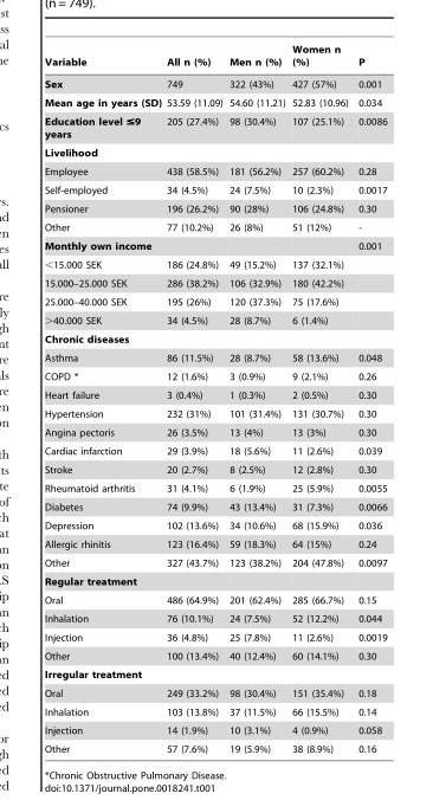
<table><thead><tr><td>Variable</td><td>All n (%)</td><td>Men n (%)</td><td>Women n (%)</td><td>P</td></tr></thead><tbody><tr><td>Sex</td><td>749</td><td>322 (43%)</td><td>427 (57%)</td><td>0.001</td></tr><tr><td>Mean age in years (SD)</td><td>53.59 (11.09)</td><td>54.60 (11.21)</td><td>52.83 (10.96)</td><td>0.034</td></tr><tr><td>Education level ≤9 years</td><td>205 (27.4%)</td><td>98 (30.4%)</td><td>107 (25.1%)</td><td>0.0086</td></tr><tr><td colspan="5">Livelihood</td></tr><tr><td>Employee</td><td>438 (58.5%)</td><td>181 (56.2%)</td><td>257 (60.2%)</td><td>0.28</td></tr><tr><td>Self-employed</td><td>34 (4.5%)</td><td>24 (7.5%)</td><td>10 (2.3%)</td><td>0.0017</td></tr><tr><td>Pensioner</td><td>196 (26.2%)</td><td>90 (28%)</td><td>106 (24.8%)</td><td>0.30</td></tr><tr><td>Other</td><td>77 (10.2%)</td><td>26 (8%)</td><td>51 (12%)</td><td>-</td></tr><tr><td>Monthly own income</td><td></td><td></td><td></td><td>0.001</td></tr><tr><td>&lt;15.000 SEK</td><td>186 (24.8%)</td><td>49 (15.2%)</td><td>137 (32.1%)</td><td></td></tr><tr><td>15.000–25.000 SEK</td><td>286 (38.2%)</td><td>106 (32.9%)</td><td>180 (42.2%)</td><td></td></tr><tr><td>25.000–40.000 SEK</td><td>195 (26%)</td><td>120 (37.3%)</td><td>75 (17.6%)</td><td></td></tr><tr><td>&gt;40.000 SEK</td><td>34 (4.5%)</td><td>28 (8.7%)</td><td>6 (1.4%)</td><td></td></tr><tr><td colspan="5">Chronic diseases</td></tr><tr><td>Asthma</td><td>86 (11.5%)</td><td>28 (8.7%)</td><td>58 (13.6%)</td><td>0.048</td></tr><tr><td>COPD *</td><td>12 (1.6%)</td><td>3 (0.9%)</td><td>9 (2.1%)</td><td>0.26</td></tr><tr><td>Heart failure</td><td>3 (0.4%)</td><td>1 (0.3%)</td><td>2 (0.5%)</td><td>0.30</td></tr><tr><td>Hypertension</td><td>232 (31%)</td><td>101 (31.4%)</td><td>131 (30.7%)</td><td>0.30</td></tr><tr><td>Angina pectoris</td><td>26 (3.5%)</td><td>13 (4%)</td><td>13 (3%)</td><td>0.30</td></tr><tr><td>Cardiac infarction</td><td>29 (3.9%)</td><td>18 (5.6%)</td><td>11 (2.6%)</td><td>0.039</td></tr><tr><td>Stroke</td><td>20 (2.7%)</td><td>8 (2.5%)</td><td>12 (2.8%)</td><td>0.30</td></tr><tr><td>Rheumatoid arthritis</td><td>31 (4.1%)</td><td>6 (1.9%)</td><td>25 (5.9%)</td><td>0.0055</td></tr><tr><td>Diabetes</td><td>74 (9.9%)</td><td>43 (13.4%)</td><td>31 (7.3%)</td><td>0.0066</td></tr><tr><td>Depression</td><td>102 (13.6%)</td><td>34 (10.6%)</td><td>68 (15.9%)</td><td>0.036</td></tr><tr><td>Allergic rhinitis</td><td>123 (16.4%)</td><td>59 (18.3%)</td><td>64 (15%)</td><td>0.24</td></tr><tr><td>Other</td><td>327 (43.7%)</td><td>123 (38.2%)</td><td>204 (47.8%)</td><td>0.0097</td></tr><tr><td colspan="5">Regular treatment</td></tr><tr><td>Oral</td><td>486 (64.9%)</td><td>201 (62.4%)</td><td>285 (66.7%)</td><td>0.15</td></tr><tr><td>Inhalation</td><td>76 (10.1%)</td><td>24 (7.5%)</td><td>52 (12.2%)</td><td>0.044</td></tr><tr><td>Injection</td><td>36 (4.8%)</td><td>25 (7.8%)</td><td>11 (2.6%)</td><td>0.0019</td></tr><tr><td>Other</td><td>100 (13.4%)</td><td>40 (12.4%)</td><td>60 (14.1%)</td><td>0.30</td></tr><tr><td colspan="5">Irregular treatment</td></tr><tr><td>Oral</td><td>249 (33.2%)</td><td>98 (30.4%)</td><td>151 (35.4%)</td><td>0.18</td></tr><tr><td>Inhalation</td><td>103 (13.8%)</td><td>37 (11.5%)</td><td>66 (15.5%)</td><td>0.14</td></tr><tr><td>Injection</td><td>14 (1.9%)</td><td>10 (3.1%)</td><td>4 (0.9%)</td><td>0.058</td></tr><tr><td>Other</td><td>57 (7.6%)</td><td>19 (5.9%)</td><td>38 (8.9%)</td><td>0.16</td></tr></tbody></table>